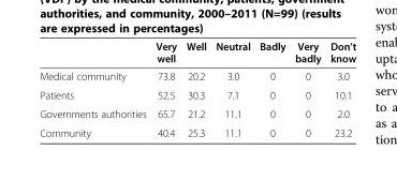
<table><thead><tr><td></td><td>Very well</td><td>Well</td><td>Neutral</td><td>Badly</td><td>Very badly</td><td>Don’t know</td></tr></thead><tbody><tr><td>Medical community</td><td>73.8</td><td>20.2</td><td>3.0</td><td>0</td><td>0</td><td>3.0</td></tr><tr><td>Patients</td><td>52.5</td><td>30.3</td><td>7.1</td><td>0</td><td>0</td><td>10.1</td></tr><tr><td>Governments authorities</td><td>65.7</td><td>21.2</td><td>11.1</td><td>0</td><td>0</td><td>2.0</td></tr><tr><td>Community</td><td>40.4</td><td>25.3</td><td>11.1</td><td>0</td><td>0</td><td>23.2</td></tr></tbody></table>